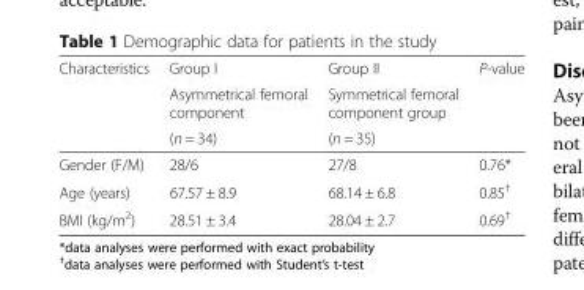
<table><thead><tr><td rowspan="3">Characteristics</td><td rowspan="3">Group I Asymmetrical femoral component (n = 34)</td><td rowspan="3">Group II Symmetrical femoral component group (n = 35)</td><td rowspan="3">P-value</td></tr><tr></tr><tr></tr></thead><tbody><tr><td>Gender (F/M)</td><td>28/6</td><td>27/8</td><td>0.76*</td></tr><tr><td>Age (years)</td><td>67.57 ± 8.9</td><td>68.14 ± 6.8</td><td>0.85<sup>†</sup></td></tr><tr><td>BMI (kg/m<sup>2</sup>)</td><td>28.51 ± 3.4</td><td>28.04 ± 2.7</td><td>0.69<sup>†</sup></td></tr></tbody></table>